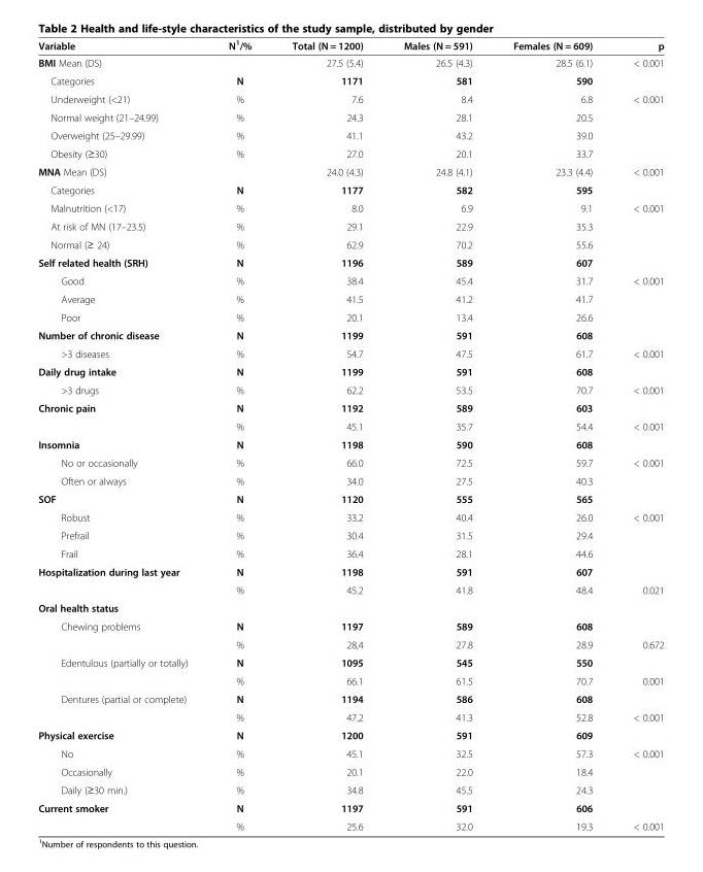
<table><thead><tr><td>Variable</td><td>N<sup>1</sup>/%</td><td>Total (N = 1200)</td><td>Males (N = 591)</td><td>Females (N = 609)</td><td>p</td></tr></thead><tbody><tr><td>BMI Mean (DS)</td><td></td><td>27.5 (5.4)</td><td>26.5 (4.3)</td><td>28.5 (6.1)</td><td>&lt; 0.001</td></tr><tr><td>Categories</td><td>N</td><td>1171</td><td>581</td><td>590</td><td></td></tr><tr><td>Underweight (&lt;21)</td><td>%</td><td>7.6</td><td>8.4</td><td>6.8</td><td>&lt; 0.001</td></tr><tr><td>Normal weight (21–24.99)</td><td>%</td><td>24.3</td><td>28.1</td><td>20.5</td><td></td></tr><tr><td>Overweight (25–29.99)</td><td>%</td><td>41.1</td><td>43.2</td><td>39.0</td><td></td></tr><tr><td>Obesity (≥30)</td><td>%</td><td>27.0</td><td>20.1</td><td>33.7</td><td></td></tr><tr><td>MNA Mean (DS)</td><td></td><td>24.0 (4.3)</td><td>24.8 (4.1)</td><td>23.3 (4.4)</td><td>&lt; 0.001</td></tr><tr><td>Categories</td><td>N</td><td>1177</td><td>582</td><td>595</td><td></td></tr><tr><td>Malnutrition (&lt;17)</td><td>%</td><td>8.0</td><td>6.9</td><td>9.1</td><td>&lt; 0.001</td></tr><tr><td>At risk of MN (17–23.5)</td><td>%</td><td>29.1</td><td>22.9</td><td>35.3</td><td></td></tr><tr><td>Normal (≥ 24)</td><td>%</td><td>62.9</td><td>70.2</td><td>55.6</td><td></td></tr><tr><td>Self related health (SRH)</td><td>N</td><td>1196</td><td>589</td><td>607</td><td></td></tr><tr><td>Good</td><td>%</td><td>38.4</td><td>45.4</td><td>31.7</td><td>&lt; 0.001</td></tr><tr><td>Average</td><td>%</td><td>41.5</td><td>41.2</td><td>41.7</td><td></td></tr><tr><td>Poor</td><td>%</td><td>20.1</td><td>13.4</td><td>26.6</td><td></td></tr><tr><td>Number of chronic disease</td><td>N</td><td>1199</td><td>591</td><td>608</td><td></td></tr><tr><td>&gt;3 diseases</td><td>%</td><td>54.7</td><td>47.5</td><td>61.7</td><td>&lt; 0.001</td></tr><tr><td>Daily drug intake</td><td>N</td><td>1199</td><td>591</td><td>608</td><td></td></tr><tr><td>&gt;3 drugs</td><td>%</td><td>62.2</td><td>53.5</td><td>70.7</td><td>&lt; 0.001</td></tr><tr><td rowspan="2">Chronic pain</td><td>N</td><td>1192</td><td>589</td><td>603</td><td></td></tr><tr><td>%</td><td>45.1</td><td>35.7</td><td>54.4</td><td>&lt; 0.001</td></tr><tr><td>Insomnia</td><td>N</td><td>1198</td><td>590</td><td>608</td><td></td></tr><tr><td>No or occasionally</td><td>%</td><td>66.0</td><td>72.5</td><td>59.7</td><td>&lt; 0.001</td></tr><tr><td>Often or always</td><td>%</td><td>34.0</td><td>27.5</td><td>40.3</td><td></td></tr><tr><td>SOF</td><td>N</td><td>1120</td><td>555</td><td>565</td><td></td></tr><tr><td>Robust</td><td>%</td><td>33.2</td><td>40.4</td><td>26.0</td><td>&lt; 0.001</td></tr><tr><td>Prefrail</td><td>%</td><td>30.4</td><td>31.5</td><td>29.4</td><td></td></tr><tr><td>Frail</td><td>%</td><td>36.4</td><td>28.1</td><td>44.6</td><td></td></tr><tr><td rowspan="2">Hospitalization during last year</td><td>N</td><td>1198</td><td>591</td><td>607</td><td></td></tr><tr><td>%</td><td>45.2</td><td>41.8</td><td>48.4</td><td>0.021</td></tr><tr><td colspan="6">Oral health status</td></tr><tr><td rowspan="2">Chewing problems</td><td>N</td><td>1197</td><td>589</td><td>608</td><td></td></tr><tr><td>%</td><td>28,4</td><td>27.8</td><td>28.9</td><td>0.672</td></tr><tr><td rowspan="2">Edentulous (partially or totally)</td><td>N</td><td>1095</td><td>545</td><td>550</td><td></td></tr><tr><td>%</td><td>66.1</td><td>61.5</td><td>70.7</td><td>0.001</td></tr><tr><td rowspan="2">Dentures (partial or complete)</td><td>N</td><td>1194</td><td>586</td><td>608</td><td></td></tr><tr><td>%</td><td>47.2</td><td>41.3</td><td>52.8</td><td>&lt; 0.001</td></tr><tr><td>Physical exercise</td><td>N</td><td>1200</td><td>591</td><td>609</td><td></td></tr><tr><td>No</td><td>%</td><td>45.1</td><td>32.5</td><td>57.3</td><td>&lt; 0.001</td></tr><tr><td>Occasionally</td><td>%</td><td>20.1</td><td>22.0</td><td>18.4</td><td></td></tr><tr><td>Daily (≥30 min.)</td><td>%</td><td>34.8</td><td>45.5</td><td>24.3</td><td></td></tr><tr><td rowspan="2">Current smoker</td><td>N</td><td>1197</td><td>591</td><td>606</td><td></td></tr><tr><td>%</td><td>25.6</td><td>32.0</td><td>19.3</td><td>&lt; 0.001</td></tr></tbody></table>